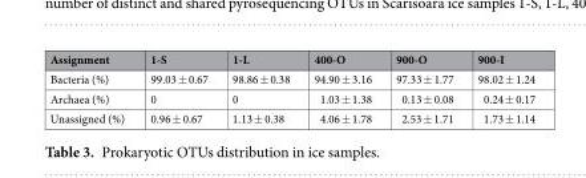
<table><thead><tr><td>Assignment</td><td>1-S</td><td>1-L</td><td>400-O</td><td>900-O</td><td>900-I</td></tr></thead><tbody><tr><td>Bacteria (%)</td><td>99.03 ± 0.67</td><td>98.86 ± 0.38</td><td>94.90 ± 3.16</td><td>97.33 ± 1.77</td><td>98.02 ± 1.24</td></tr><tr><td>Archaea (%)</td><td>0</td><td>0</td><td>1.03 ± 1.38</td><td>0.13 ± 0.08</td><td>0.24 ± 0.17</td></tr><tr><td>Unassigned (%)</td><td>0.96 ± 0.67</td><td>1.13 ± 0.38</td><td>4.06 ± 1.78</td><td>2.53 ± 1.71</td><td>1.73 ± 1.14</td></tr></tbody></table>